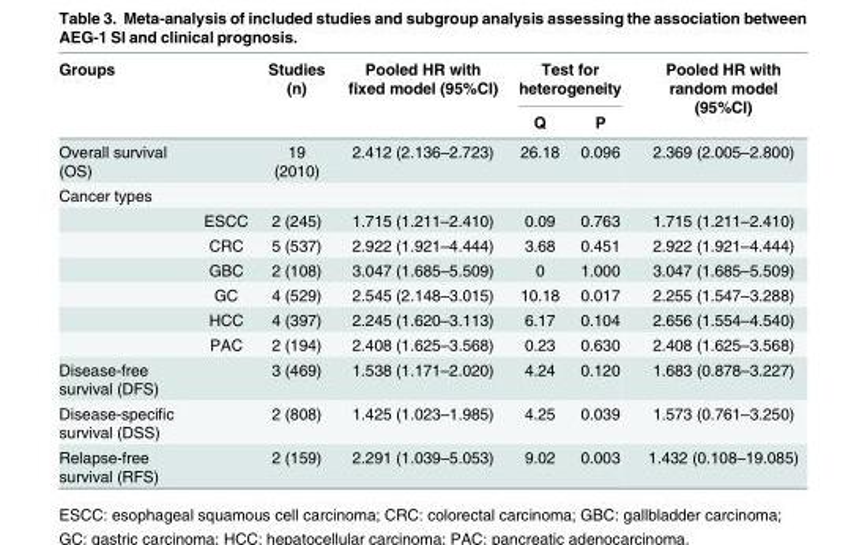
<table><thead><tr><td rowspan="2">Groups</td><td rowspan="2"></td><td rowspan="2">Studies (n)</td><td rowspan="2">Pooled HR with fixed model (95%CI)</td><td colspan="2">Test for heterogeneity</td><td rowspan="2">Pooled HR with random model (95%CI)</td></tr><tr><td>Q</td><td>P</td></tr></thead><tbody><tr><td>Overall survival (OS)</td><td></td><td>19 (2010)</td><td>2.412 (2.136–2.723)</td><td>26.18</td><td>0.096</td><td>2.369 (2.005–2.800)</td></tr><tr><td colspan="7">Cancer types</td></tr><tr><td></td><td>ESCC</td><td>2 (245)</td><td>1.715 (1.211–2.410)</td><td>0.09</td><td>0.763</td><td>1.715 (1.211–2.410)</td></tr><tr><td></td><td>CRC</td><td>5 (537)</td><td>2.922 (1.921–4.444)</td><td>3.68</td><td>0.451</td><td>2.922 (1.921–4.444)</td></tr><tr><td></td><td>GBC</td><td>2 (108)</td><td>3.047 (1.685–5.509)</td><td>0</td><td>1.000</td><td>3.047 (1.685–5.509)</td></tr><tr><td></td><td>GC</td><td>4 (529)</td><td>2.545 (2.148–3.015)</td><td>10.18</td><td>0.017</td><td>2.255 (1.547–3.288)</td></tr><tr><td></td><td>HCC</td><td>4 (397)</td><td>2.245 (1.620–3.113)</td><td>6.17</td><td>0.104</td><td>2.656 (1.554–4.540)</td></tr><tr><td></td><td>PAC</td><td>2 (194)</td><td>2.408 (1.625–3.568)</td><td>0.23</td><td>0.630</td><td>2.408 (1.625–3.568)</td></tr><tr><td>Disease-free survival (DFS)</td><td></td><td>3 (469)</td><td>1.538 (1.171–2.020)</td><td>4.24</td><td>0.120</td><td>1.683 (0.878–3.227)</td></tr><tr><td>Disease-specific survival (DSS)</td><td></td><td>2 (808)</td><td>1.425 (1.023–1.985)</td><td>4.25</td><td>0.039</td><td>1.573 (0.761–3.250)</td></tr><tr><td>Relapse-free survival (RFS)</td><td></td><td>2 (159)</td><td>2.291 (1.039–5.053)</td><td>9.02</td><td>0.003</td><td>1.432 (0.108–19.085)</td></tr></tbody></table>